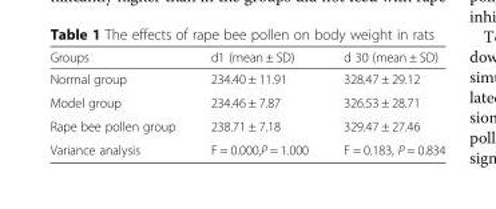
<table><thead><tr><td>Groups</td><td>d1 (mean ± SD)</td><td>d 30 (mean ± SD)</td></tr></thead><tbody><tr><td>Normal group</td><td>234.40 ± 11.91</td><td>328.47 ± 29.12</td></tr><tr><td>Model group</td><td>234.46 ± 7.87</td><td>326.53 ± 28.71</td></tr><tr><td>Rape bee pollen group</td><td>238.71 ± 7.18</td><td>329.47 ± 27.46</td></tr><tr><td>Variance analysis</td><td>F = 0.000,P = 1.000</td><td>F = 0.183, P = 0.834</td></tr></tbody></table>